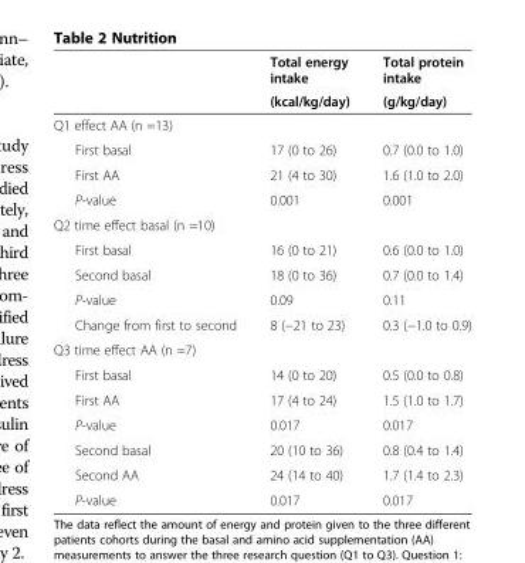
<table><thead><tr><td rowspan="2"></td><td rowspan="2">Total energy intake (kcal/kg/day)</td><td rowspan="2">Total protein intake (g/kg/day)</td></tr><tr></tr></thead><tbody><tr><td colspan="3">Q1 effect AA (n =13)</td></tr><tr><td>First basal</td><td>17 (0 to 26)</td><td>0.7 (0.0 to 1.0)</td></tr><tr><td>First AA</td><td>21 (4 to 30)</td><td>1.6 (1.0 to 2.0)</td></tr><tr><td>P-value</td><td>0.001</td><td>0.001</td></tr><tr><td colspan="3">Q2 time effect basal (n =10)</td></tr><tr><td>First basal</td><td>16 (0 to 21)</td><td>0.6 (0.0 to 1.0)</td></tr><tr><td>Second basal</td><td>18 (0 to 36)</td><td>0.7 (0.0 to 1.4)</td></tr><tr><td>P-value</td><td>0.09</td><td>0.11</td></tr><tr><td>Change from first to second</td><td>8 (−21 to 23)</td><td>0.3 (−1.0 to 0.9)</td></tr><tr><td colspan="3">Q3 time effect AA (n =7)</td></tr><tr><td>First basal</td><td>14 (0 to 20)</td><td>0.5 (0.0 to 0.8)</td></tr><tr><td>First AA</td><td>17 (4 to 24)</td><td>1.5 (1.0 to 1.7)</td></tr><tr><td>P-value</td><td>0.017</td><td>0.017</td></tr><tr><td>Second basal</td><td>20 (10 to 36)</td><td>0.8 (0.4 to 1.4)</td></tr><tr><td>Second AA</td><td>24 (14 to 40)</td><td>1.7 (1.4 to 2.3)</td></tr><tr><td>P-value</td><td>0.017</td><td>0.017</td></tr></tbody></table>